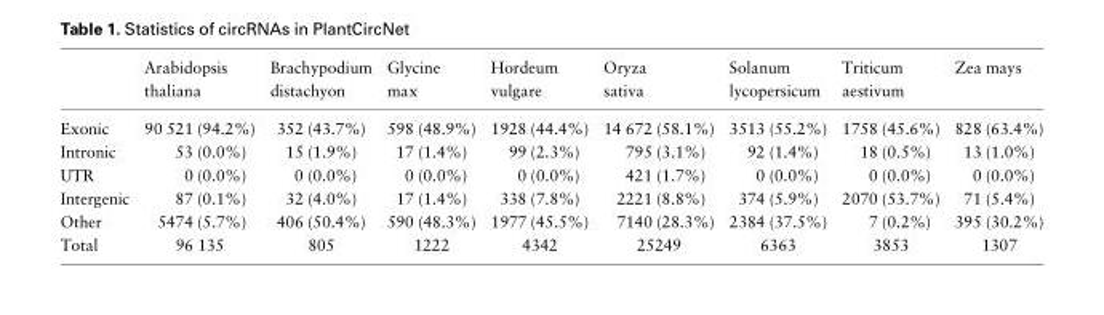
<table><thead><tr><td></td><td>Arabidopsis thaliana</td><td>Brachypodium distachyon</td><td>Glycine max</td><td>Hordeum vulgare</td><td>Oryza sativa</td><td>Solanum lycopersicum</td><td>Triticum aestivum</td><td>Zea mays</td></tr></thead><tbody><tr><td>Exonic</td><td>90 521 (94.2%)</td><td>352 (43.7%)</td><td>598 (48.9%)</td><td>1928 (44.4%)</td><td>14 672 (58.1%)</td><td>3513 (55.2%)</td><td>1758 (45.6%)</td><td>828 (63.4%)</td></tr><tr><td>Intronic</td><td>53 (0.0%)</td><td>15 (1.9%)</td><td>17 (1.4%)</td><td>99 (2.3%)</td><td>795 (3.1%)</td><td>92 (1.4%)</td><td>18 (0.5%)</td><td>13 (1.0%)</td></tr><tr><td>UTR</td><td>0 (0.0%)</td><td>0 (0.0%)</td><td>0 (0.0%)</td><td>0 (0.0%)</td><td>421 (1.7%)</td><td>0 (0.0%)</td><td>0 (0.0%)</td><td>0 (0.0%)</td></tr><tr><td>Intergenic</td><td>87 (0.1%)</td><td>32 (4.0%)</td><td>17 (1.4%)</td><td>338 (7.8%)</td><td>2221 (8.8%)</td><td>374 (5.9%)</td><td>2070 (53.7%)</td><td>71 (5.4%)</td></tr><tr><td>Other</td><td>5474 (5.7%)</td><td>406 (50.4%)</td><td>590 (48.3%)</td><td>1977 (45.5%)</td><td>7140 (28.3%)</td><td>2384 (37.5%)</td><td>7 (0.2%)</td><td>395 (30.2%)</td></tr><tr><td>Total</td><td>96 135</td><td>805</td><td>1222</td><td>4342</td><td>25249</td><td>6363</td><td>3853</td><td>1307</td></tr></tbody></table>